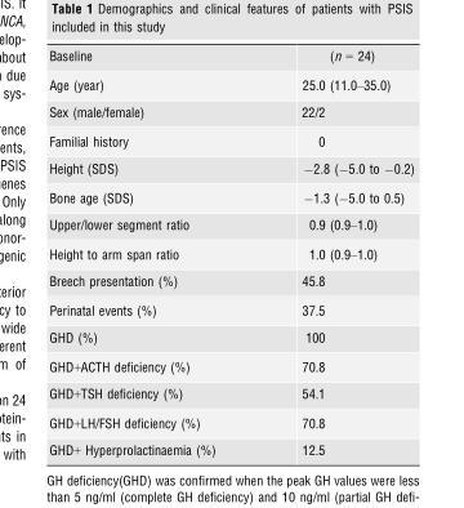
<table><tbody><tr><td>Baseline</td><td>(n = 24)</td></tr><tr><td>Age (year)</td><td>25.0 (11.0–35.0)</td></tr><tr><td>Sex (male/female)</td><td>22/2</td></tr><tr><td>Familial history</td><td>0</td></tr><tr><td>Height (SDS)</td><td>−2.8 (−5.0 to −0.2)</td></tr><tr><td>Bone age (SDS)</td><td>−1.3 (−5.0 to 0.5)</td></tr><tr><td>Upper/lower segment ratio</td><td>0.9 (0.9–1.0)</td></tr><tr><td>Height to arm span ratio</td><td>1.0 (0.9–1.0)</td></tr><tr><td>Breech presentation (%)</td><td>45.8</td></tr><tr><td>Perinatal events (%)</td><td>37.5</td></tr><tr><td>GHD (%)</td><td>100</td></tr><tr><td>GHD+ACTH deficiency (%)</td><td>70.8</td></tr><tr><td>GHD+TSH deficiency (%)</td><td>54.1</td></tr><tr><td>GHD+LH/FSH deficiency (%)</td><td>70.8</td></tr><tr><td>GHD+ Hyperprolactinaemia (%)</td><td>12.5</td></tr></tbody></table>